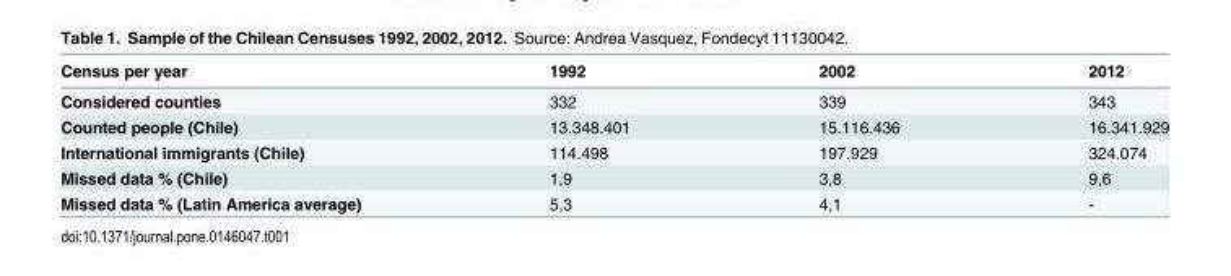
<table><thead><tr><td>Census per year</td><td>1992</td><td>2002</td><td>2012</td></tr></thead><tbody><tr><td>Considered counties</td><td>332</td><td>339</td><td>343</td></tr><tr><td>Counted people (Chile)</td><td>13.348.401</td><td>15.116.436</td><td>16.341.929</td></tr><tr><td>International immigrants (Chile)</td><td>114.498</td><td>197.929</td><td>324.074</td></tr><tr><td>Missed data % (Chile)</td><td>1,9</td><td>3,8</td><td>9,6</td></tr><tr><td>Missed data % (Latin America average)</td><td>5,3</td><td>4,1</td><td>-</td></tr></tbody></table>